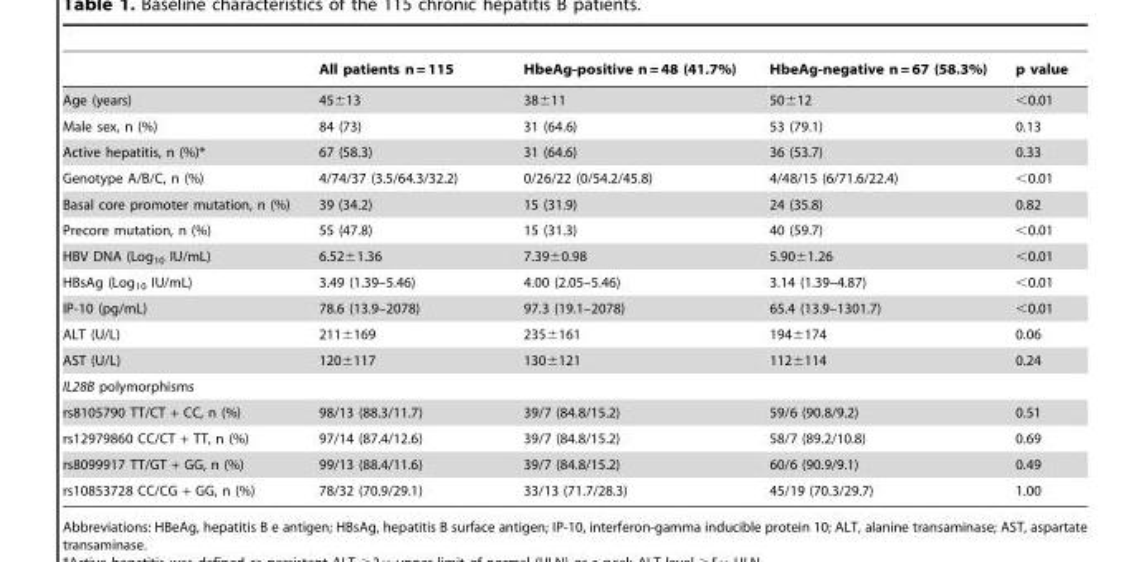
<table><thead><tr><td></td><td>All patients n = 115</td><td>HbeAg-positive n = 48 (41.7%)</td><td>HbeAg-negative n = 67 (58.3%)</td><td>p value</td></tr></thead><tbody><tr><td>Age (years)</td><td>45±13</td><td>38±11</td><td>50±12</td><td>&lt;0.01</td></tr><tr><td>Male sex, n (%)</td><td>84 (73)</td><td>31 (64.6)</td><td>53 (79.1)</td><td>0.13</td></tr><tr><td>Active hepatitis, n (%)*</td><td>67 (58.3)</td><td>31 (64.6)</td><td>36 (53.7)</td><td>0.33</td></tr><tr><td>Genotype A/B/C, n (%)</td><td>4/74/37 (3.5/64.3/32.2)</td><td>0/26/22 (0/54.2/45.8)</td><td>4/48/15 (6/71.6/22.4)</td><td>&lt;0.01</td></tr><tr><td>Basal core promoter mutation, n (%)</td><td>39 (34.2)</td><td>15 (31.9)</td><td>24 (35.8)</td><td>0.82</td></tr><tr><td>Precore mutation, n (%)</td><td>55 (47.8)</td><td>15 (31.3)</td><td>40 (59.7)</td><td>&lt;0.01</td></tr><tr><td>HBV DNA (Log<sub>10</sub> IU/mL)</td><td>6.52±1.36</td><td>7.39±0.98</td><td>5.90±1.26</td><td>&lt;0.01</td></tr><tr><td>HBsAg (Log<sub>10</sub> IU/mL)</td><td>3.49 (1.39–5.46)</td><td>4.00 (2.05–5.46)</td><td>3.14 (1.39–4.87)</td><td>&lt;0.01</td></tr><tr><td>IP-10 (pg/mL)</td><td>78.6 (13.9–2078)</td><td>97.3 (19.1–2078)</td><td>65.4 (13.9–1301.7)</td><td>&lt;0.01</td></tr><tr><td>ALT (U/L)</td><td>211±169</td><td>235±161</td><td>194±174</td><td>0.06</td></tr><tr><td>AST (U/L)</td><td>120±117</td><td>130±121</td><td>112±114</td><td>0.24</td></tr><tr><td colspan="5">IL28B polymorphisms</td></tr><tr><td>rs8105790 TT/CT + CC, n (%)</td><td>98/13 (88.3/11.7)</td><td>39/7 (84.8/15.2)</td><td>59/6 (90.8/9.2)</td><td>0.51</td></tr><tr><td>rs12979860 CC/CT + TT, n (%)</td><td>97/14 (87.4/12.6)</td><td>39/7 (84.8/15.2)</td><td>58/7 (89.2/10.8)</td><td>0.69</td></tr><tr><td>rs8099917 TT/GT + GG, n (%)</td><td>99/13 (88.4/11.6)</td><td>39/7 (84.8/15.2)</td><td>60/6 (90.9/9.1)</td><td>0.49</td></tr><tr><td>rs10853728 CC/CG + GG, n (%)</td><td>78/32 (70.9/29.1)</td><td>33/13 (71.7/28.3)</td><td>45/19 (70.3/29.7)</td><td>1.00</td></tr></tbody></table>